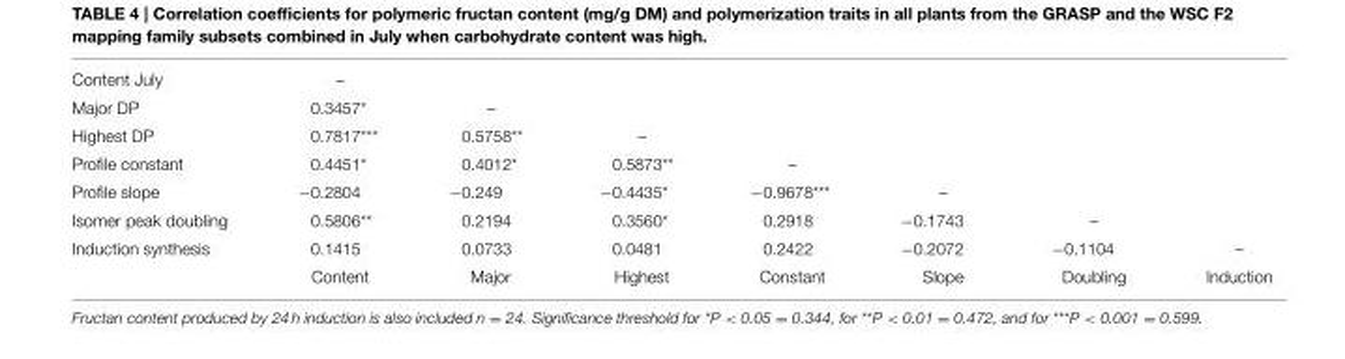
<table><tbody><tr><td>Content July</td><td>–</td><td></td><td></td><td></td><td></td><td></td><td></td></tr><tr><td>Major DP</td><td>0.3457*</td><td>–</td><td></td><td></td><td></td><td></td><td></td></tr><tr><td>Highest DP</td><td>0.7817***</td><td>0.5758**</td><td>–</td><td></td><td></td><td></td><td></td></tr><tr><td>Profile constant</td><td>0.4451*</td><td>0.4012*</td><td>0.5873**</td><td>–</td><td></td><td></td><td></td></tr><tr><td>Profile slope</td><td>−0.2804</td><td>−0.249</td><td>−0.4435*</td><td>−0.9678***</td><td>–</td><td></td><td></td></tr><tr><td>Isomer peak doubling</td><td>0.5806**</td><td>0.2194</td><td>0.3560*</td><td>0.2918</td><td>−0.1743</td><td>–</td><td></td></tr><tr><td rowspan="2">Induction synthesis</td><td>0.1415</td><td>0.0733</td><td>0.0481</td><td>0.2422</td><td>−0.2072</td><td>−0.1104</td><td>–</td></tr><tr><td>Content</td><td>Major</td><td>Highest</td><td>Constant</td><td>Slope</td><td>Doubling</td><td>Induction</td></tr></tbody></table>